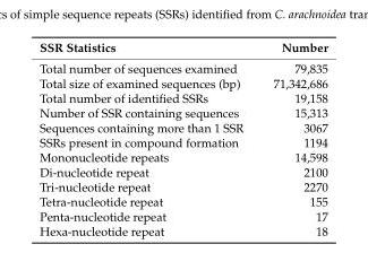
<table><thead><tr><td>SSR Statistics</td><td>Number</td></tr></thead><tbody><tr><td>Total number of sequences examined</td><td>79,835</td></tr><tr><td>Total size of examined sequences (bp)</td><td>71,342,686</td></tr><tr><td>Total number of identified SSRs</td><td>19,158</td></tr><tr><td>Number of SSR containing sequences</td><td>15,313</td></tr><tr><td>Sequences containing more than 1 SSR</td><td>3067</td></tr><tr><td>SSRs present in compound formation</td><td>1194</td></tr><tr><td>Mononucleotide repeats</td><td>14,598</td></tr><tr><td>Di-nucleotide repeat</td><td>2100</td></tr><tr><td>Tri-nucleotide repeat</td><td>2270</td></tr><tr><td>Tetra-nucleotide repeat</td><td>155</td></tr><tr><td>Penta-nucleotide repeat</td><td>17</td></tr><tr><td>Hexa-nucleotide repeat</td><td>18</td></tr></tbody></table>